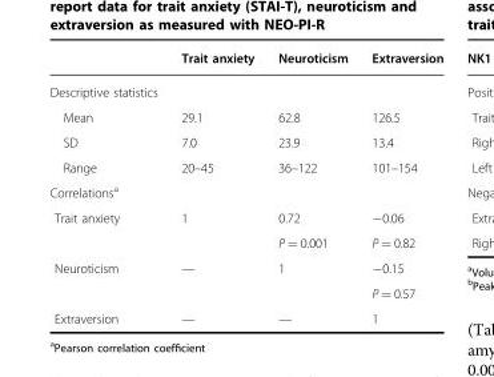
<table><thead><tr><td></td><td>Trait anxiety</td><td>Neuroticism</td><td>Extraversion</td></tr></thead><tbody><tr><td colspan="4">Descriptive statistics</td></tr><tr><td>Mean</td><td>29.1</td><td>62.8</td><td>126.5</td></tr><tr><td>SD</td><td>7.0</td><td>23.9</td><td>13.4</td></tr><tr><td>Range</td><td>20–45</td><td>36–122</td><td>101–154</td></tr><tr><td colspan="4">Correlations<sup>a</sup></td></tr><tr><td rowspan="2">Trait anxiety</td><td rowspan="2">1</td><td>0.72</td><td>−0.06</td></tr><tr><td>P = 0.001</td><td>P = 0.82</td></tr><tr><td rowspan="2">Neuroticism</td><td rowspan="2">—</td><td>1</td><td>−0.15</td></tr><tr><td></td><td>P = 0.57</td></tr><tr><td>Extraversion</td><td>—</td><td>—</td><td>1</td></tr></tbody></table>